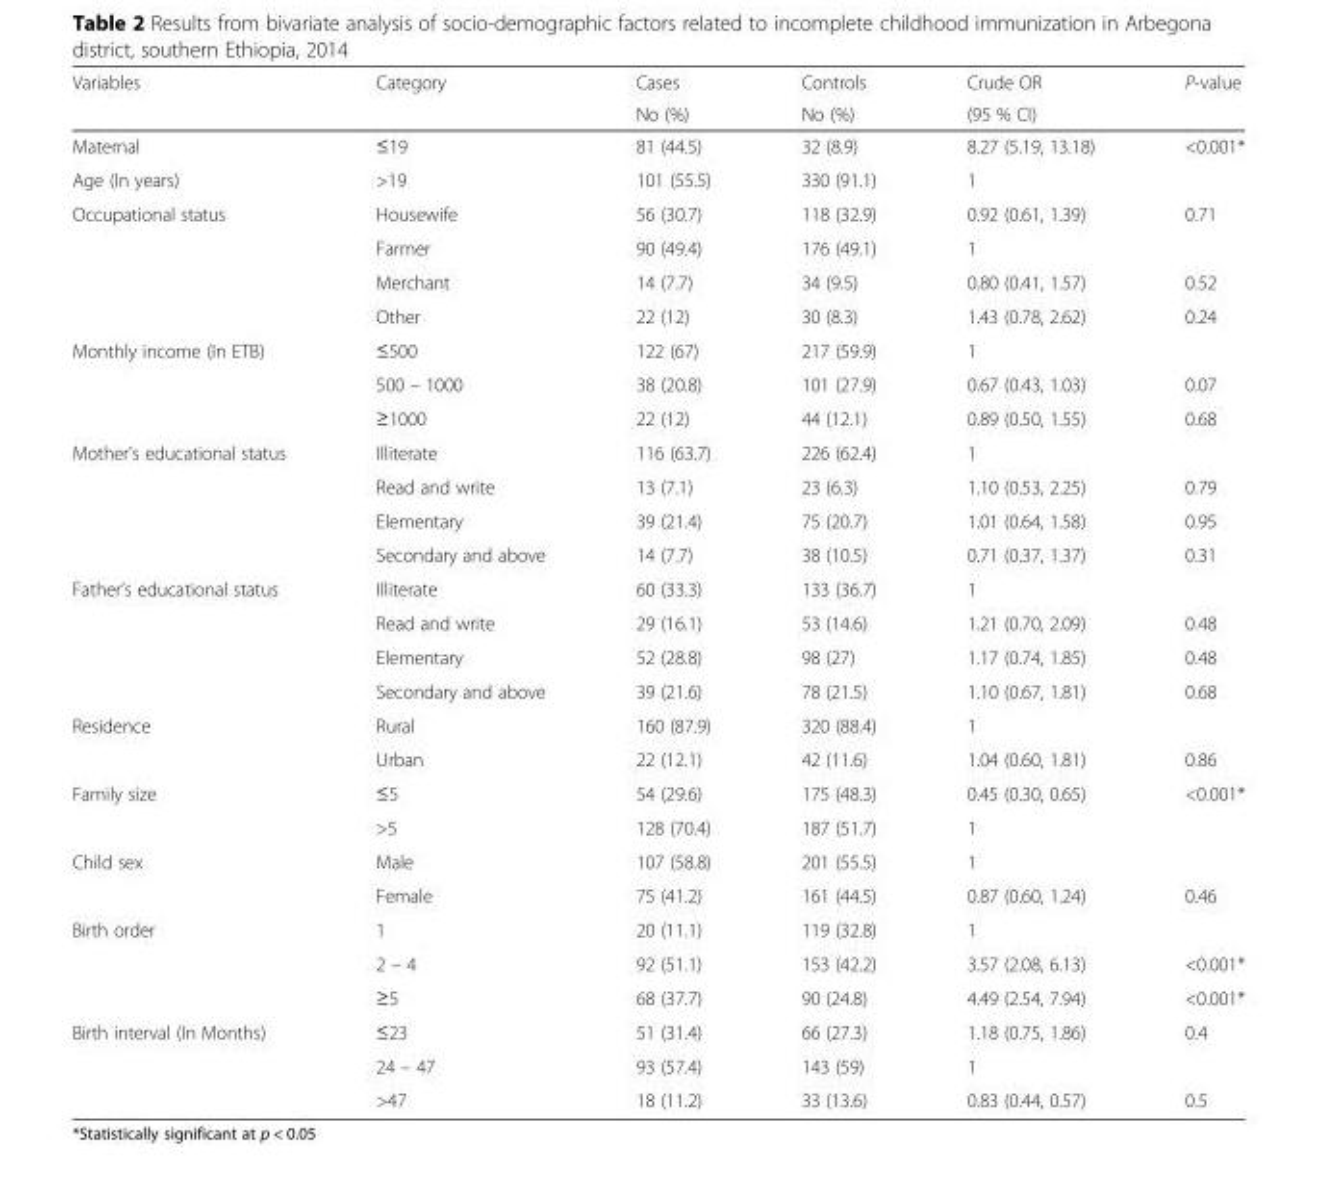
<table><thead><tr><td rowspan="2">Variables</td><td rowspan="2">Category</td><td rowspan="2">Cases No (%)</td><td rowspan="2">Controls No (%)</td><td rowspan="2">Crude OR (95 % CI)</td><td rowspan="2">P-value</td></tr><tr></tr></thead><tbody><tr><td>Maternal</td><td>≤19</td><td>81 (44.5)</td><td>32 (8.9)</td><td>8.27 (5.19, 13.18)</td><td>&lt;0.001*</td></tr><tr><td>Age (In years)</td><td>&gt;19</td><td>101 (55.5)</td><td>330 (91.1)</td><td>1</td><td></td></tr><tr><td rowspan="4">Occupational status</td><td>Housewife</td><td>56 (30.7)</td><td>118 (32.9)</td><td>0.92 (0.61, 1.39)</td><td>0.71</td></tr><tr><td>Farmer</td><td>90 (49.4)</td><td>176 (49.1)</td><td>1</td><td></td></tr><tr><td>Merchant</td><td>14 (7.7)</td><td>34 (9.5)</td><td>0.80 (0.41, 1.57)</td><td>0.52</td></tr><tr><td>Other</td><td>22 (12)</td><td>30 (8.3)</td><td>1.43 (0.78, 2.62)</td><td>0.24</td></tr><tr><td rowspan="3">Monthly income (In ETB)</td><td>≤500</td><td>122 (67)</td><td>217 (59.9)</td><td>1</td><td></td></tr><tr><td>500 – 1000</td><td>38 (20.8)</td><td>101 (27.9)</td><td>0.67 (0.43, 1.03)</td><td>0.07</td></tr><tr><td>≥1000</td><td>22 (12)</td><td>44 (12.1)</td><td>0.89 (0.50, 1.55)</td><td>0.68</td></tr><tr><td rowspan="4">Mother’s educational status</td><td>Illiterate</td><td>116 (63.7)</td><td>226 (62.4)</td><td>1</td><td></td></tr><tr><td>Read and write</td><td>13 (7.1)</td><td>23 (6.3)</td><td>1.10 (0.53, 2.25)</td><td>0.79</td></tr><tr><td>Elementary</td><td>39 (21.4)</td><td>75 (20.7)</td><td>1.01 (0.64, 1.58)</td><td>0.95</td></tr><tr><td>Secondary and above</td><td>14 (7.7)</td><td>38 (10.5)</td><td>0.71 (0.37, 1.37)</td><td>0.31</td></tr><tr><td rowspan="4">Father’s educational status</td><td>Illiterate</td><td>60 (33.3)</td><td>133 (36.7)</td><td>1</td><td></td></tr><tr><td>Read and write</td><td>29 (16.1)</td><td>53 (14.6)</td><td>1.21 (0.70, 2.09)</td><td>0.48</td></tr><tr><td>Elementary</td><td>52 (28.8)</td><td>98 (27)</td><td>1.17 (0.74, 1.85)</td><td>0.48</td></tr><tr><td>Secondary and above</td><td>39 (21.6)</td><td>78 (21.5)</td><td>1.10 (0.67, 1.81)</td><td>0.68</td></tr><tr><td rowspan="2">Residence</td><td>Rural</td><td>160 (87.9)</td><td>320 (88.4)</td><td>1</td><td></td></tr><tr><td>Urban</td><td>22 (12.1)</td><td>42 (11.6)</td><td>1.04 (0.60, 1.81)</td><td>0.86</td></tr><tr><td rowspan="2">Family size</td><td>≤5</td><td>54 (29.6)</td><td>175 (48.3)</td><td>0.45 (0.30, 0.65)</td><td>&lt;0.001*</td></tr><tr><td>&gt;5</td><td>128 (70.4)</td><td>187 (51.7)</td><td>1</td><td></td></tr><tr><td rowspan="2">Child sex</td><td>Male</td><td>107 (58.8)</td><td>201 (55.5)</td><td>1</td><td></td></tr><tr><td>Female</td><td>75 (41.2)</td><td>161 (44.5)</td><td>0.87 (0.60, 1.24)</td><td>0.46</td></tr><tr><td rowspan="3">Birth order</td><td>1</td><td>20 (11.1)</td><td>119 (32.8)</td><td>1</td><td></td></tr><tr><td>2 – 4</td><td>92 (51.1)</td><td>153 (42.2)</td><td>3.57 (2.08, 6.13)</td><td>&lt;0.001*</td></tr><tr><td>≥5</td><td>68 (37.7)</td><td>90 (24.8)</td><td>4.49 (2.54, 7.94)</td><td>&lt;0.001*</td></tr><tr><td rowspan="3">Birth interval (In Months)</td><td>≤23</td><td>51 (31.4)</td><td>66 (27.3)</td><td>1.18 (0.75, 1.86)</td><td>0.4</td></tr><tr><td>24 – 47</td><td>93 (57.4)</td><td>143 (59)</td><td>1</td><td></td></tr><tr><td>&gt;47</td><td>18 (11.2)</td><td>33 (13.6)</td><td>0.83 (0.44, 0.57)</td><td>0.5</td></tr></tbody></table>